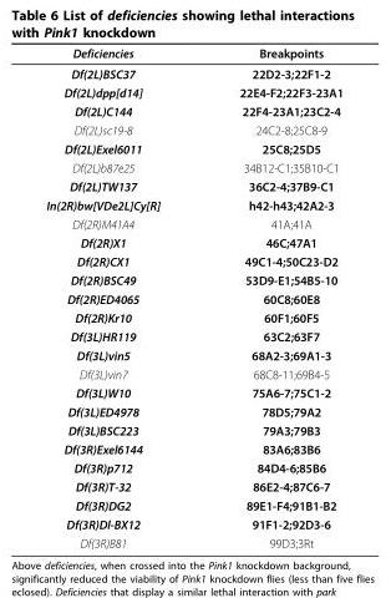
<table><thead><tr><td>Deficiencies</td><td>Breakpoints</td></tr></thead><tbody><tr><td>Df(2L)BSC37</td><td>22D2-3;22F1-2</td></tr><tr><td>Df(2L)dpp[d14]</td><td>22E4-F2;22F3-23A1</td></tr><tr><td>Df(2L)C144</td><td>22F4-23A1;23C2-4</td></tr><tr><td>Df(2L)sc19-8</td><td>24C2-8;25C8-9</td></tr><tr><td>Df(2L)Exel6011</td><td>25C8;25D5</td></tr><tr><td>Df(2L)b87e25</td><td>34B12-C1;35B10-C1</td></tr><tr><td>Df(2L)TW137</td><td>36C2-4;37B9-C1</td></tr><tr><td>In(2R)bw[VDe2L]Cy[R]</td><td>h42-h43;42A2-3</td></tr><tr><td>Df(2R)M41A4</td><td>41A;41A</td></tr><tr><td>Df(2R)X1</td><td>46C;47A1</td></tr><tr><td>Df(2R)CX1</td><td>49C1-4;50C23-D2</td></tr><tr><td>Df(2R)BSC49</td><td>53D9-E1;54B5-10</td></tr><tr><td>Df(2R)ED4065</td><td>60C8;60E8</td></tr><tr><td>Df(2R)Kr10</td><td>60F1;60F5</td></tr><tr><td>Df(3L)HR119</td><td>63C2;63F7</td></tr><tr><td>Df(3L)vin5</td><td>68A2-3;69A1-3</td></tr><tr><td>Df(3L)vin7</td><td>68C8-11;69B4-5</td></tr><tr><td>Df(3L)W10</td><td>75A6-7;75C1-2</td></tr><tr><td>Df(3L)ED4978</td><td>78D5;79A2</td></tr><tr><td>Df(3L)BSC223</td><td>79A3;79B3</td></tr><tr><td>Df(3R)Exel6144</td><td>83A6;83B6</td></tr><tr><td>Df(3R)p712</td><td>84D4-6;85B6</td></tr><tr><td>Df(3R)T-32</td><td>86E2-4;87C6-7</td></tr><tr><td>Df(3R)DG2</td><td>89E1-F4;91B1-B2</td></tr><tr><td>Df(3R)Dl-BX12</td><td>91F1-2;92D3-6</td></tr><tr><td>Df(3R)B81</td><td>99D3;3Rt</td></tr></tbody></table>